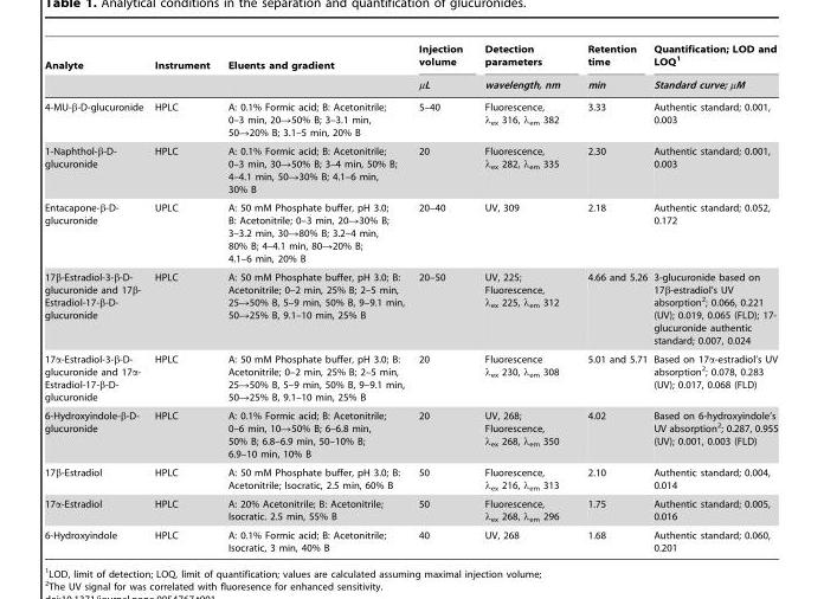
<table><thead><tr><td rowspan="2">Analyte</td><td rowspan="2">Instrument</td><td rowspan="2">Eluents and gradient</td><td rowspan="2">Injection volume µL</td><td rowspan="2">Detection parameters wavelength, nm</td><td rowspan="2">Retention time min</td><td rowspan="2">Quantification; LOD and LOQ<sup>1</sup> Standard curve; µM</td></tr><tr></tr></thead><tbody><tr><td>4-MU-β-D-glucuronide</td><td>HPLC</td><td>A: 0.1% Formic acid; B: Acetonitrile; 0–3 min, 20→50% B; 3–3.1 min, 50→20% B; 3.1–5 min, 20% B</td><td>5–40</td><td>Fluorescence, λ<sub>ex</sub> 316, λ<sub>em</sub> 382</td><td>3.33</td><td>Authentic standard; 0.001, 0.003</td></tr><tr><td>1-Naphthol-β-D- glucuronide</td><td>HPLC</td><td>A: 0.1% Formic acid; B: Acetonitrile; 0–3 min, 30→50% B; 3–4 min, 50% B; 4–4.1 min, 50→30% B; 4.1–6 min, 30% B</td><td>20</td><td>Fluorescence, λ<sub>ex</sub> 282, λ<sub>em</sub> 335</td><td>2.30</td><td>Authentic standard; 0.001, 0.003</td></tr><tr><td>Entacapone-β-D- glucuronide</td><td>UPLC</td><td>A: 50 mM Phosphate buffer, pH 3.0; B: Acetonitrile; 0–3 min, 20→30% B; 3–3.2 min, 30→80% B; 3.2–4 min, 80% B; 4–4.1 min, 80→20% B; 4.1–6 min, 20% B</td><td>20–40</td><td>UV, 309</td><td>2.18</td><td>Authentic standard; 0.052, 0.172</td></tr><tr><td>17β-Estradiol-3-β-D- glucuronide and 17β- Estradiol-17-β-D- glucuronide</td><td>HPLC</td><td>A: 50 mM Phosphate buffer, pH 3.0; B: Acetonitrile; 0–2 min, 25% B; 2–5 min, 25→50% B, 5–9 min, 50% B, 9–9.1 min, 50→25% B, 9.1–10 min, 25% B</td><td>20–50</td><td>UV, 225; Fluorescence, λ<sub>ex</sub> 225, λ<sub>em</sub> 312</td><td>4.66 and 5.26</td><td>3-glucuronide based on 17β-estradiol’s UV absorption<sup>2</sup>; 0.066, 0.221 (UV); 0.019, 0.065 (FLD); 17- glucuronide authentic standard; 0.007, 0.024</td></tr><tr><td>17α-Estradiol-3-β-D- glucuronide and 17α- Estradiol-17-β-D- glucuronide</td><td>HPLC</td><td>A: 50 mM Phosphate buffer, pH 3.0; B: Acetonitrile; 0–2 min, 25% B; 2–5 min, 25→50% B, 5–9 min, 50% B, 9–9.1 min, 50→25% B, 9.1–10 min, 25% B</td><td>20</td><td>Fluorescence λ<sub>ex</sub> 230, λ<sub>em</sub> 308</td><td>5.01 and 5.71</td><td>Based on 17α-estradiol’s UV absorption<sup>2</sup>; 0.078, 0.283 (UV); 0.017, 0.068 (FLD)</td></tr><tr><td>6-Hydroxyindole-β-D- glucuronide</td><td>HPLC</td><td>A: 0.1% Formic acid; B: Acetonitrile; 0–6 min, 10→50% B; 6–6.8 min, 50% B; 6.8–6.9 min, 50–10% B; 6.9–10 min, 10% B</td><td>20</td><td>UV, 268; Fluorescence, λ<sub>ex</sub> 268, λ<sub>em</sub> 350</td><td>4.02</td><td>Based on 6-hydroxyindole’s UV absorption<sup>2</sup>; 0.287, 0.955 (UV); 0.001, 0.003 (FLD)</td></tr><tr><td>17β-Estradiol</td><td>HPLC</td><td>A: 50 mM Phosphate buffer, pH 3.0; B: Acetonitrile; Isocratic, 2.5 min, 60% B</td><td>50</td><td>Fluorescence, λ<sub>ex</sub> 216, λ<sub>em</sub> 313</td><td>2.10</td><td>Authentic standard; 0.004, 0.014</td></tr><tr><td>17α-Estradiol</td><td>HPLC</td><td>A: 20% Acetonitrile; B: Acetonitrile; Isocratic. 2.5 min, 55% B</td><td>50</td><td>Fluorescence, λ<sub>ex</sub> 268, λ<sub>em</sub> 296</td><td>1.75</td><td>Authentic standard; 0.005, 0.016</td></tr><tr><td>6-Hydroxyindole</td><td>HPLC</td><td>A: 0.1% Formic acid; B: Acetonitrile; Isocratic, 3 min, 40% B</td><td>40</td><td>UV, 268</td><td>1.68</td><td>Authentic standard; 0.060, 0.201</td></tr></tbody></table>